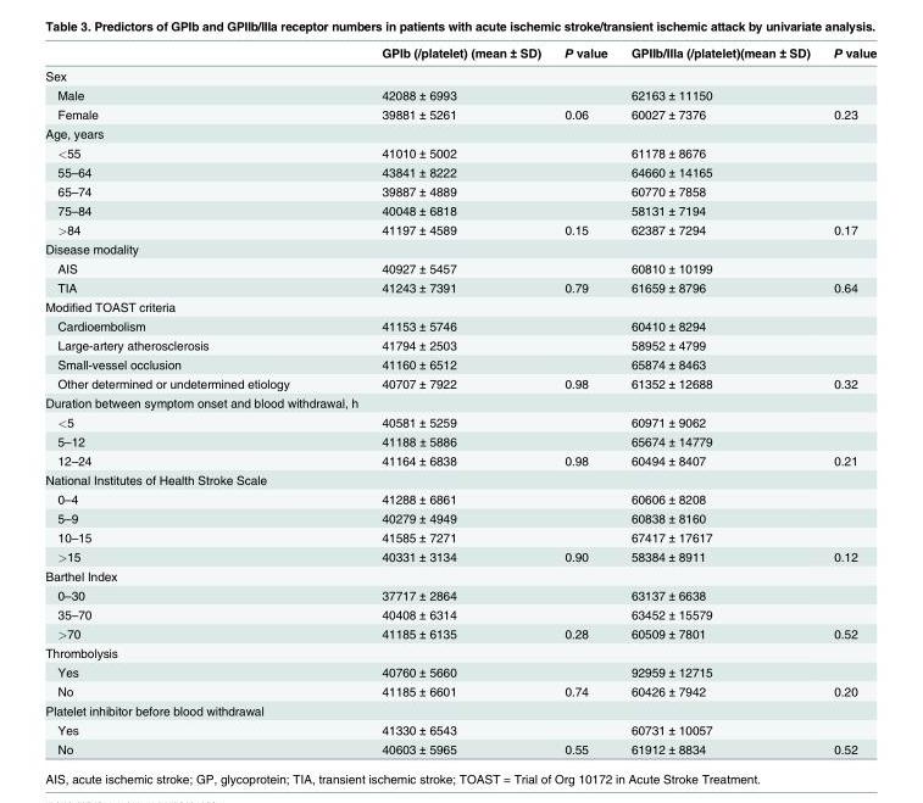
<table><thead><tr><td></td><td>GPIb (/platelet) (mean ± SD)</td><td>P value</td><td>GPIIb/IIIa (/platelet)(mean ± SD)</td><td>P value</td></tr></thead><tbody><tr><td colspan="5">Sex</td></tr><tr><td>Male</td><td>42088 ± 6993</td><td></td><td>62163 ± 11150</td><td></td></tr><tr><td>Female</td><td>39881 ± 5261</td><td>0.06</td><td>60027 ± 7376</td><td>0.23</td></tr><tr><td colspan="5">Age, years</td></tr><tr><td>&lt;55</td><td>41010 ± 5002</td><td></td><td>61178 ± 8676</td><td></td></tr><tr><td>55–64</td><td>43841 ± 8222</td><td></td><td>64660 ± 14165</td><td></td></tr><tr><td>65–74</td><td>39887 ± 4889</td><td></td><td>60770 ± 7858</td><td></td></tr><tr><td>75–84</td><td>40048 ± 6818</td><td></td><td>58131 ± 7194</td><td></td></tr><tr><td>&gt;84</td><td>41197 ± 4589</td><td>0.15</td><td>62387 ± 7294</td><td>0.17</td></tr><tr><td colspan="5">Disease modality</td></tr><tr><td>AIS</td><td>40927 ± 5457</td><td></td><td>60810 ± 10199</td><td></td></tr><tr><td>TIA</td><td>41243 ± 7391</td><td>0.79</td><td>61659 ± 8796</td><td>0.64</td></tr><tr><td colspan="5">Modified TOAST criteria</td></tr><tr><td>Cardioembolism</td><td>41153 ± 5746</td><td></td><td>60410 ± 8294</td><td></td></tr><tr><td>Large-artery atherosclerosis</td><td>41794 ± 2503</td><td></td><td>58952 ± 4799</td><td></td></tr><tr><td>Small-vessel occlusion</td><td>41160 ± 6512</td><td></td><td>65874 ± 8463</td><td></td></tr><tr><td>Other determined or undetermined etiology</td><td>40707 ± 7922</td><td>0.98</td><td>61352 ± 12688</td><td>0.32</td></tr><tr><td colspan="5">Duration between symptom onset and blood withdrawal, h</td></tr><tr><td>&lt;5</td><td>40581 ± 5259</td><td></td><td>60971 ± 9062</td><td></td></tr><tr><td>5–12</td><td>41188 ± 5886</td><td></td><td>65674 ± 14779</td><td></td></tr><tr><td>12–24</td><td>41164 ± 6838</td><td>0.98</td><td>60494 ± 8407</td><td>0.21</td></tr><tr><td colspan="5">National Institutes of Health Stroke Scale</td></tr><tr><td>0–4</td><td>41288 ± 6861</td><td></td><td>60606 ± 8208</td><td></td></tr><tr><td>5–9</td><td>40279 ± 4949</td><td></td><td>60838 ± 8160</td><td></td></tr><tr><td>10–15</td><td>41585 ± 7271</td><td></td><td>67417 ± 17617</td><td></td></tr><tr><td>&gt;15</td><td>40331 ± 3134</td><td>0.90</td><td>58384 ± 8911</td><td>0.12</td></tr><tr><td colspan="5">Barthel Index</td></tr><tr><td>0–30</td><td>37717 ± 2864</td><td></td><td>63137 ± 6638</td><td></td></tr><tr><td>35–70</td><td>40408 ± 6314</td><td></td><td>63452 ± 15579</td><td></td></tr><tr><td>&gt;70</td><td>41185 ± 6135</td><td>0.28</td><td>60509 ± 7801</td><td>0.52</td></tr><tr><td colspan="5">Thrombolysis</td></tr><tr><td>Yes</td><td>40760 ± 5660</td><td></td><td>92959 ± 12715</td><td></td></tr><tr><td>No</td><td>41185 ± 6601</td><td>0.74</td><td>60426 ± 7942</td><td>0.20</td></tr><tr><td colspan="5">Platelet inhibitor before blood withdrawal</td></tr><tr><td>Yes</td><td>41330 ± 6543</td><td></td><td>60731 ± 10057</td><td></td></tr><tr><td>No</td><td>40603 ± 5965</td><td>0.55</td><td>61912 ± 8834</td><td>0.52</td></tr></tbody></table>